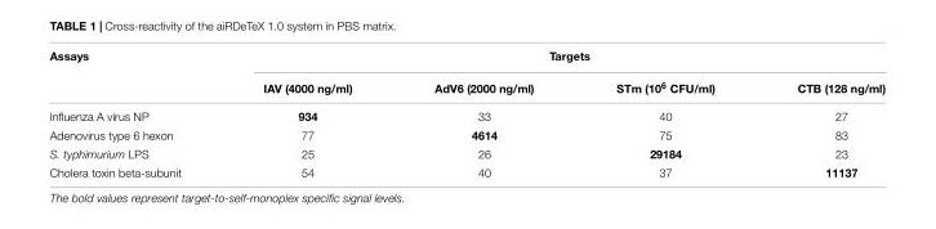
<table><thead><tr><td rowspan="2">Assays</td><td colspan="4">Targets</td></tr><tr><td>IAV (4000 ng/ml)</td><td>AdV6 (2000 ng/ml)</td><td>STm (10<sup>6</sup> CFU/ml)</td><td>CTB (128 ng/ml)</td></tr></thead><tbody><tr><td>Influenza A virus NP</td><td>934</td><td>33</td><td>40</td><td>27</td></tr><tr><td>Adenovirus type 6 hexon</td><td>77</td><td>4614</td><td>75</td><td>83</td></tr><tr><td>S. typhimurium LPS</td><td>25</td><td>26</td><td>29184</td><td>23</td></tr><tr><td>Cholera toxin beta-subunit</td><td>54</td><td>40</td><td>37</td><td>11137</td></tr></tbody></table>